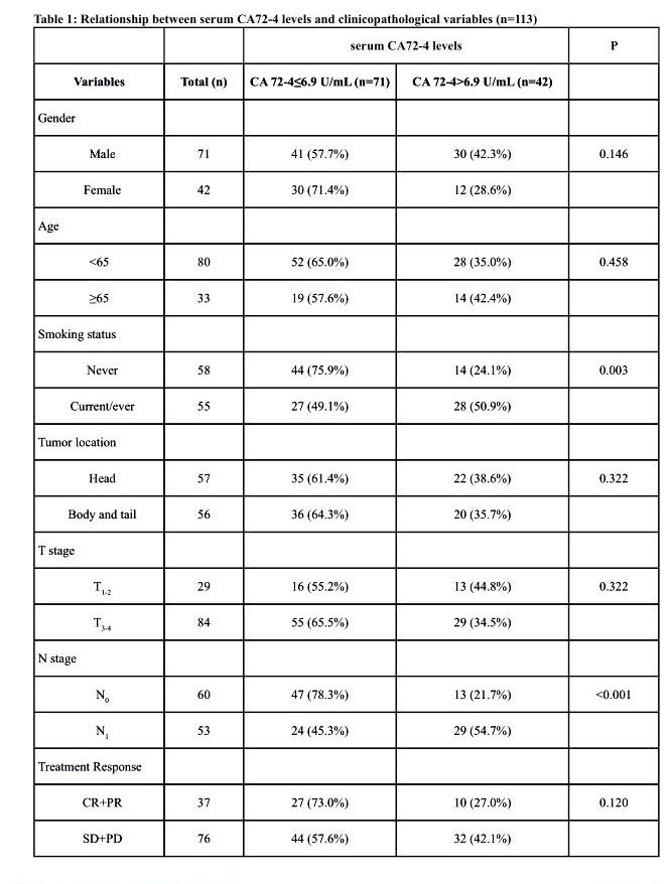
<table><thead><tr><td rowspan="2">Variables</td><td rowspan="2">total (n)</td><td colspan="2">serum cA72-4 levels</td><td rowspan="2">P</td></tr><tr><td>CA 72-4≤6.9 U/mL (n=71)</td><td>CA 72-4&gt;6.9 U/mL (n=42)</td></tr></thead><tbody><tr><td colspan="5">Gender</td></tr><tr><td>Male</td><td>71</td><td>41 (57.7%)</td><td>30 (42.3%)</td><td>0.146</td></tr><tr><td>Female</td><td>42</td><td>30 (71.4%)</td><td>12 (28.6%)</td><td></td></tr><tr><td colspan="5">Age</td></tr><tr><td>&lt;65</td><td>80</td><td>52 (65.0%)</td><td>28 (35.0%)</td><td>0.458</td></tr><tr><td>≥65</td><td>33</td><td>19 (57.6%)</td><td>14 (42.4%)</td><td></td></tr><tr><td colspan="5">Smoking status</td></tr><tr><td>Never</td><td>58</td><td>44 (75.9%)</td><td>14 (24.1%)</td><td>0.003</td></tr><tr><td>Current/ever</td><td>55</td><td>27 (49.1%)</td><td>28 (50.9%)</td><td></td></tr><tr><td colspan="5">Tumor location</td></tr><tr><td>Head</td><td>57</td><td>35 (61.4%)</td><td>22 (38.6%)</td><td>0.322</td></tr><tr><td>Body and tail</td><td>56</td><td>36 (64.3%)</td><td>20 (35.7%)</td><td></td></tr><tr><td colspan="5">T stage</td></tr><tr><td>T<sub>1-2</sub></td><td>29</td><td>16 (55.2%)</td><td>13 (44.8%)</td><td>0.322</td></tr><tr><td>T<sub>3-4</sub></td><td>84</td><td>55 (65.5%)</td><td>29 (34.5%)</td><td></td></tr><tr><td colspan="5">N stage</td></tr><tr><td>N<sub>0</sub></td><td>60</td><td>47 (78.3%)</td><td>13 (21.7%)</td><td>&lt;0.001</td></tr><tr><td>N<sub>1</sub></td><td>53</td><td>24 (45.3%)</td><td>29 (54.7%)</td><td></td></tr><tr><td colspan="5">Treatment Response</td></tr><tr><td>CR+PR</td><td>37</td><td>27 (73.0%)</td><td>10 (27.0%)</td><td>0.120</td></tr><tr><td>SD+PD</td><td>76</td><td>44 (57.6%)</td><td>32 (42.1%)</td><td></td></tr></tbody></table>